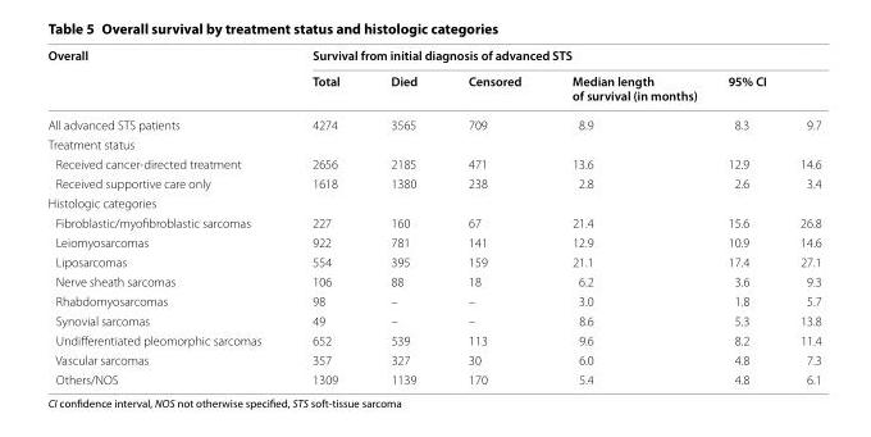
<table><thead><tr><td rowspan="3">Overall All advanced STS patients</td><td colspan="6">Survival from initial diagnosis of advanced STS</td></tr><tr><td rowspan="2">Total 4274</td><td rowspan="2">Died 3565</td><td rowspan="2">Censored 709</td><td rowspan="2">Median length of survival (in months) 8.9</td><td colspan="2">95% CI</td></tr><tr><td>8.3</td><td>9.7</td></tr></thead><tbody><tr><td colspan="7">Treatment status</td></tr><tr><td>Received cancer-directed treatment</td><td>2656</td><td>2185</td><td>471</td><td>13.6</td><td>12.9</td><td>14.6</td></tr><tr><td>Received supportive care only</td><td>1618</td><td>1380</td><td>238</td><td>2.8</td><td>2.6</td><td>3.4</td></tr><tr><td colspan="7">Histologic categories</td></tr><tr><td>Fibroblastic/myofibroblastic sarcomas</td><td>227</td><td>160</td><td>67</td><td>21.4</td><td>15.6</td><td>26.8</td></tr><tr><td>Leiomyosarcomas</td><td>922</td><td>781</td><td>141</td><td>12.9</td><td>10.9</td><td>14.6</td></tr><tr><td>Liposarcomas</td><td>554</td><td>395</td><td>159</td><td>21.1</td><td>17.4</td><td>27.1</td></tr><tr><td>Nerve sheath sarcomas</td><td>106</td><td>88</td><td>18</td><td>6.2</td><td>3.6</td><td>9.3</td></tr><tr><td>Rhabdomyosarcomas</td><td>98</td><td>–</td><td>–</td><td>3.0</td><td>1.8</td><td>5.7</td></tr><tr><td>Synovial sarcomas</td><td>49</td><td>–</td><td>–</td><td>8.6</td><td>5.3</td><td>13.8</td></tr><tr><td>Undifferentiated pleomorphic sarcomas</td><td>652</td><td>539</td><td>113</td><td>9.6</td><td>8.2</td><td>11.4</td></tr><tr><td>Vascular sarcomas</td><td>357</td><td>327</td><td>30</td><td>6.0</td><td>4.8</td><td>7.3</td></tr><tr><td>Others/NOS</td><td>1309</td><td>1139</td><td>170</td><td>5.4</td><td>4.8</td><td>6.1</td></tr></tbody></table>